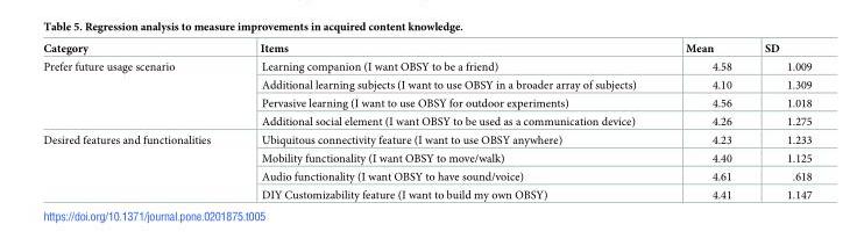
<table><thead><tr><td>Category</td><td>Items</td><td>Mean</td><td>SD</td></tr></thead><tbody><tr><td rowspan="4">Prefer future usage scenario</td><td>Learning companion (I want OBSY to be a friend)</td><td>4.58</td><td>1.009</td></tr><tr><td>Additional learning subjects (I want to use OBSY in a broader array of subjects)</td><td>4.10</td><td>1.309</td></tr><tr><td>Pervasive learning (I want to use OBSY for outdoor experiments)</td><td>4.56</td><td>1.018</td></tr><tr><td>Additional social element (I want OBSY to be used as a communication device)</td><td>4.26</td><td>1.275</td></tr><tr><td rowspan="4">Desired features and functionalities</td><td>Ubiquitous connectivity feature (I want to use OBSY anywhere)</td><td>4.23</td><td>1.233</td></tr><tr><td>Mobility functionality (I want OBSY to move/walk)</td><td>4.40</td><td>1.125</td></tr><tr><td>Audio functionality (I want OBSY to have sound/voice)</td><td>4.61</td><td>.618</td></tr><tr><td>DIY Customizability feature (I want to build my own OBSY)</td><td>4.41</td><td>1.147</td></tr></tbody></table>